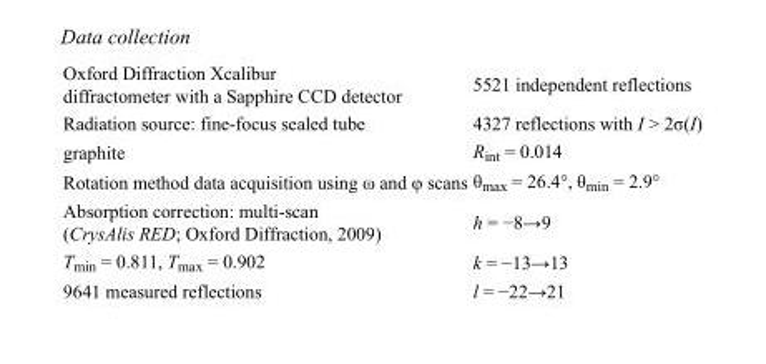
<table><tbody><tr><td>Oxford Diffraction Xcalibur diffractometer with a Sapphire CCD detector</td><td>5521 independent reflections</td></tr><tr><td>Radiation source: fine-focus sealed tube</td><td>4327 reflections with I &gt; 2σ(I)</td></tr><tr><td>graphite</td><td>R<sub>int</sub> = 0.014</td></tr><tr><td>Rotation method data acquisition using ω and φ scans</td><td>θ<sub>max</sub> = 26.4°, θ<sub>min</sub> = 2.9°</td></tr><tr><td>Absorption correction: multi-scan (CrysAlis RED; Oxford Diffraction, 2009)</td><td>h = −8→9</td></tr><tr><td>T<sub>min</sub> = 0.811, T<sub>max</sub> = 0.902</td><td>k = −13→13</td></tr><tr><td>9641 measured reflections</td><td>l = −22→21</td></tr></tbody></table>